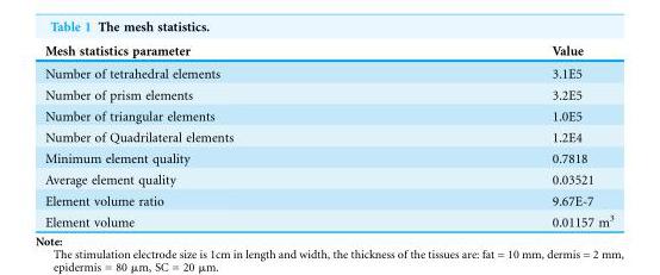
<table><thead><tr><td>Mesh statistics parameter</td><td>Value</td></tr></thead><tbody><tr><td>Number of tetrahedral elements</td><td>3.1E5</td></tr><tr><td>Number of prism elements</td><td>3.2E5</td></tr><tr><td>Number of triangular elements</td><td>1.0E5</td></tr><tr><td>Number of Quadrilateral elements</td><td>1.2E4</td></tr><tr><td>Minimum element quality</td><td>0.7818</td></tr><tr><td>Average element quality</td><td>0.03521</td></tr><tr><td>Element volume ratio</td><td>9.67E-7</td></tr><tr><td>Element volume</td><td>0.01157 m3</td></tr></tbody></table>